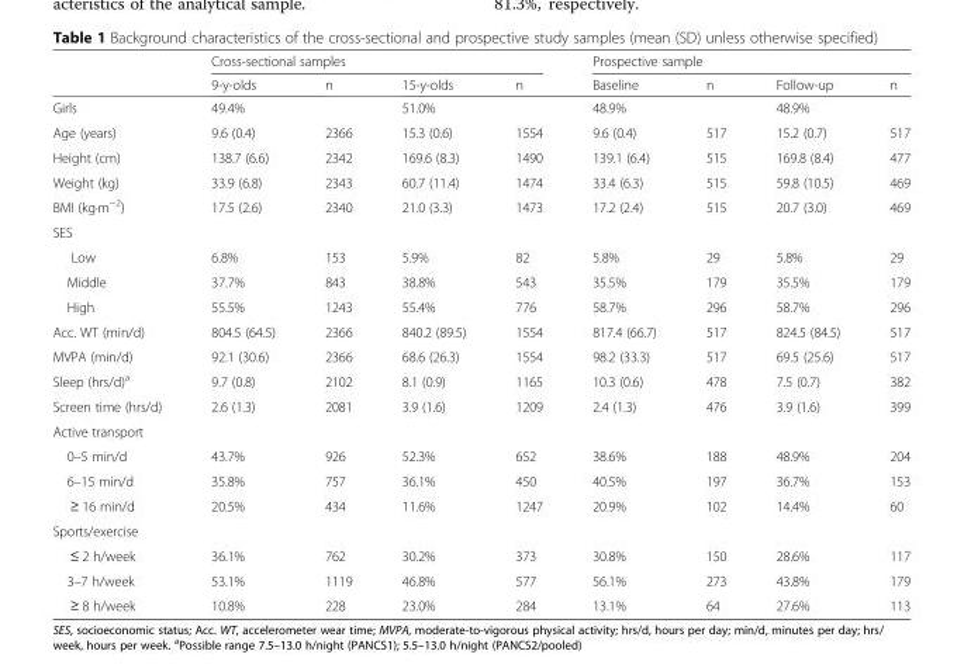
<table><thead><tr><td rowspan="2"></td><td colspan="4">Cross-sectional samples</td><td colspan="4">Prospective sample</td></tr><tr><td>9-y-olds</td><td>n</td><td>15-y-olds</td><td>n</td><td>Baseline</td><td>n</td><td>Follow-up</td><td>n</td></tr></thead><tbody><tr><td>Girls</td><td>49.4%</td><td></td><td>51.0%</td><td></td><td>48.9%</td><td></td><td>48.9%</td><td></td></tr><tr><td>Age (years)</td><td>9.6 (0.4)</td><td>2366</td><td>15.3 (0.6)</td><td>1554</td><td>9.6 (0.4)</td><td>517</td><td>15.2 (0.7)</td><td>517</td></tr><tr><td>Height (cm)</td><td>138.7 (6.6)</td><td>2342</td><td>169.6 (8.3)</td><td>1490</td><td>139.1 (6.4)</td><td>515</td><td>169.8 (8.4)</td><td>477</td></tr><tr><td>Weight (kg)</td><td>33.9 (6.8)</td><td>2343</td><td>60.7 (11.4)</td><td>1474</td><td>33.4 (6.3)</td><td>515</td><td>59.8 (10.5)</td><td>469</td></tr><tr><td>BMI (kg∙m<sup>−2</sup>)</td><td>17.5 (2.6)</td><td>2340</td><td>21.0 (3.3)</td><td>1473</td><td>17.2 (2.4)</td><td>515</td><td>20.7 (3.0)</td><td>469</td></tr><tr><td colspan="9">SES</td></tr><tr><td>Low</td><td>6.8%</td><td>153</td><td>5.9%</td><td>82</td><td>5.8%</td><td>29</td><td>5.8%</td><td>29</td></tr><tr><td>Middle</td><td>37.7%</td><td>843</td><td>38.8%</td><td>543</td><td>35.5%</td><td>179</td><td>35.5%</td><td>179</td></tr><tr><td>High</td><td>55.5%</td><td>1243</td><td>55.4%</td><td>776</td><td>58.7%</td><td>296</td><td>58.7%</td><td>296</td></tr><tr><td>Acc. WT (min/d)</td><td>804.5 (64.5)</td><td>2366</td><td>840.2 (89.5)</td><td>1554</td><td>817.4 (66.7)</td><td>517</td><td>824.5 (84.5)</td><td>517</td></tr><tr><td>MVPA (min/d)</td><td>92.1 (30.6)</td><td>2366</td><td>68.6 (26.3)</td><td>1554</td><td>98.2 (33.3)</td><td>517</td><td>69.5 (25.6)</td><td>517</td></tr><tr><td>Sleep (hrs/d)<sup>a</sup></td><td>9.7 (0.8)</td><td>2102</td><td>8.1 (0.9)</td><td>1165</td><td>10.3 (0.6)</td><td>478</td><td>7.5 (0.7)</td><td>382</td></tr><tr><td>Screen time (hrs/d)</td><td>2.6 (1.3)</td><td>2081</td><td>3.9 (1.6)</td><td>1209</td><td>2.4 (1.3)</td><td>476</td><td>3.9 (1.6)</td><td>399</td></tr><tr><td colspan="9">Active transport</td></tr><tr><td>0–5 min/d</td><td>43.7%</td><td>926</td><td>52.3%</td><td>652</td><td>38.6%</td><td>188</td><td>48.9%</td><td>204</td></tr><tr><td>6–15 min/d</td><td>35.8%</td><td>757</td><td>36.1%</td><td>450</td><td>40.5%</td><td>197</td><td>36.7%</td><td>153</td></tr><tr><td>≥ 16 min/d</td><td>20.5%</td><td>434</td><td>11.6%</td><td>1247</td><td>20.9%</td><td>102</td><td>14.4%</td><td>60</td></tr><tr><td colspan="9">Sports/exercise</td></tr><tr><td>≤ 2 h/week</td><td>36.1%</td><td>762</td><td>30.2%</td><td>373</td><td>30.8%</td><td>150</td><td>28.6%</td><td>117</td></tr><tr><td>3–7 h/week</td><td>53.1%</td><td>1119</td><td>46.8%</td><td>577</td><td>56.1%</td><td>273</td><td>43.8%</td><td>179</td></tr><tr><td>≥ 8 h/week</td><td>10.8%</td><td>228</td><td>23.0%</td><td>284</td><td>13.1%</td><td>64</td><td>27.6%</td><td>113</td></tr></tbody></table>